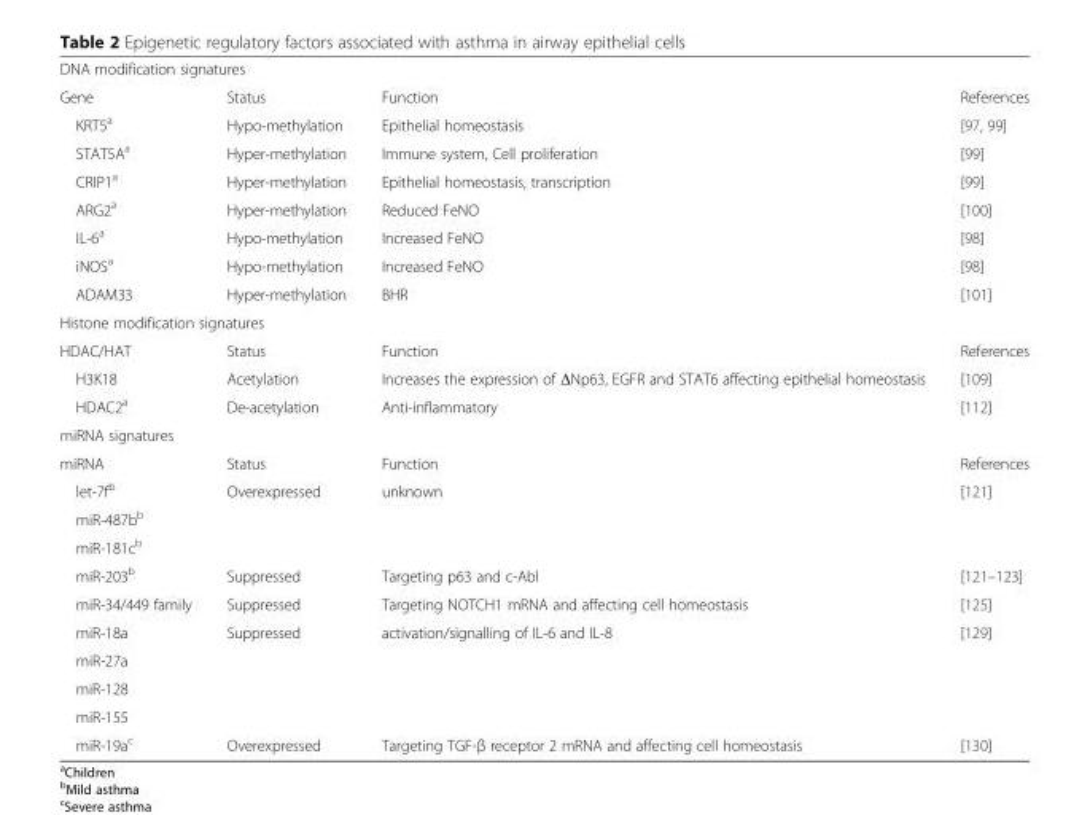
<table><tbody><tr><td colspan="4">DNA modification signatures</td></tr><tr><td>Gene</td><td>Status</td><td>Function</td><td>References</td></tr><tr><td>KRT5<sup>a</sup></td><td>Hypo-methylation</td><td>Epithelial homeostasis</td><td>[97, 99]</td></tr><tr><td>STAT5A<sup>a</sup></td><td>Hyper-methylation</td><td>Immune system, Cell proliferation</td><td>[99]</td></tr><tr><td>CRIP1<sup>a</sup></td><td>Hyper-methylation</td><td>Epithelial homeostasis, transcription</td><td>[99]</td></tr><tr><td>ARG2<sup>a</sup></td><td>Hyper-methylation</td><td>Reduced FeNO</td><td>[100]</td></tr><tr><td>IL-6<sup>a</sup></td><td>Hypo-methylation</td><td>Increased FeNO</td><td>[98]</td></tr><tr><td>iNOS<sup>a</sup></td><td>Hypo-methylation</td><td>Increased FeNO</td><td>[98]</td></tr><tr><td>ADAM33</td><td>Hyper-methylation</td><td>BHR</td><td>[101]</td></tr><tr><td colspan="4">Histone modification signatures</td></tr><tr><td>HDAC/HAT</td><td>Status</td><td>Function</td><td>References</td></tr><tr><td>H3K18</td><td>Acetylation</td><td>Increases the expression of ΔNp63, EGFR and STAT6 affecting epithelial homeostasis</td><td>[109]</td></tr><tr><td>HDAC2<sup>a</sup></td><td>De-acetylation</td><td>Anti-inflammatory</td><td>[112]</td></tr><tr><td colspan="4">miRNA signatures</td></tr><tr><td>miRNA</td><td>Status</td><td>Function</td><td>References</td></tr><tr><td>let-7f<sup>b</sup></td><td rowspan="3">Overexpressed</td><td rowspan="3">unknown</td><td rowspan="3">[121]</td></tr><tr><td>miR-487b<sup>b</sup></td></tr><tr><td>miR-181c<sup>b</sup></td></tr><tr><td>miR-203<sup>b</sup></td><td>Suppressed</td><td>Targeting p63 and c-Abl</td><td>[121–123]</td></tr><tr><td>miR-34/449 family</td><td>Suppressed</td><td>Targeting NOTCH1 mRNA and affecting cell homeostasis</td><td>[125]</td></tr><tr><td>miR-18a</td><td rowspan="4">Suppressed</td><td rowspan="4">activation/signalling of IL-6 and IL-8</td><td rowspan="4">[129]</td></tr><tr><td>miR-27a</td></tr><tr><td>miR-128</td></tr><tr><td>miR-155</td></tr><tr><td>miR-19a<sup>c</sup></td><td>Overexpressed</td><td>Targeting TGF-β receptor 2 mRNA and affecting cell homeostasis</td><td>[130]</td></tr></tbody></table>